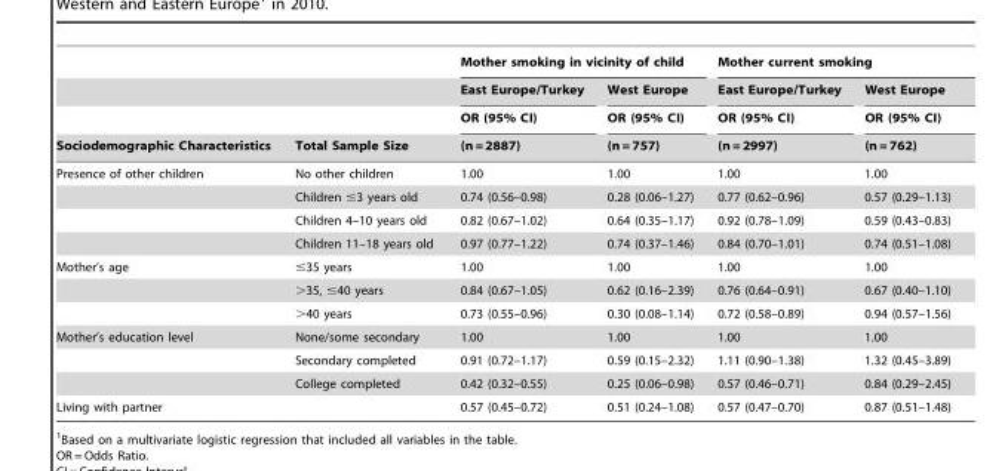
<table><thead><tr><td rowspan="4">Sociodemographic Characteristics</td><td rowspan="4">Total Sample Size</td><td colspan="2">Mother smoking in vicinity of child</td><td colspan="2">Mother current smoking</td></tr><tr><td rowspan="3">East Europe/Turkey OR (95% CI) (n = 2887)</td><td rowspan="3">West Europe OR (95% CI) (n = 757)</td><td rowspan="3">East Europe/Turkey OR (95% CI) (n = 2997)</td><td rowspan="3">West Europe OR (95% CI) (n = 762)</td></tr><tr></tr><tr></tr></thead><tbody><tr><td rowspan="4">Presence of other children</td><td>No other children</td><td>1.00</td><td>1.00</td><td>1.00</td><td>1.00</td></tr><tr><td>Children ≤3 years old</td><td>0.74 (0.56–0.98)</td><td>0.28 (0.06–1.27)</td><td>0.77 (0.62–0.96)</td><td>0.57 (0.29–1.13)</td></tr><tr><td>Children 4–10 years old</td><td>0.82 (0.67–1.02)</td><td>0.64 (0.35–1.17)</td><td>0.92 (0.78–1.09)</td><td>0.59 (0.43–0.83)</td></tr><tr><td>Children 11–18 years old</td><td>0.97 (0.77–1.22)</td><td>0.74 (0.37–1.46)</td><td>0.84 (0.70–1.01)</td><td>0.74 (0.51–1.08)</td></tr><tr><td rowspan="3">Mother’s age</td><td>≤35 years</td><td>1.00</td><td>1.00</td><td>1.00</td><td>1.00</td></tr><tr><td>&gt;35, ≤40 years</td><td>0.84 (0.67–1.05)</td><td>0.62 (0.16–2.39)</td><td>0.76 (0.64–0.91)</td><td>0.67 (0.40–1.10)</td></tr><tr><td>&gt;40 years</td><td>0.73 (0.55–0.96)</td><td>0.30 (0.08–1.14)</td><td>0.72 (0.58–0.89)</td><td>0.94 (0.57–1.56)</td></tr><tr><td rowspan="3">Mother’s education level</td><td>None/some secondary</td><td>1.00</td><td>1.00</td><td>1.00</td><td>1.00</td></tr><tr><td>Secondary completed</td><td>0.91 (0.72–1.17)</td><td>0.59 (0.15–2.32)</td><td>1.11 (0.90–1.38)</td><td>1.32 (0.45–3.89)</td></tr><tr><td>College completed</td><td>0.42 (0.32–0.55)</td><td>0.25 (0.06–0.98)</td><td>0.57 (0.46–0.71)</td><td>0.84 (0.29–2.45)</td></tr><tr><td>Living with partner</td><td></td><td>0.57 (0.45–0.72)</td><td>0.51 (0.24–1.08)</td><td>0.57 (0.47–0.70)</td><td>0.87 (0.51–1.48)</td></tr></tbody></table>